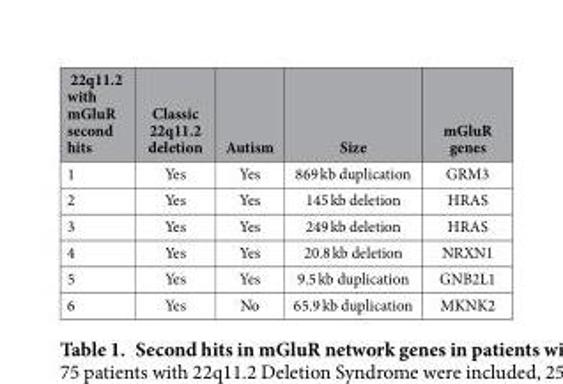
<table><thead><tr><td>22q11.2 with mGluR second hits</td><td>Classic 22q11.2 deletion</td><td>Autism</td><td>Size</td><td>mGluR genes</td></tr></thead><tbody><tr><td>1</td><td>Yes</td><td>Yes</td><td>869 kb duplication</td><td>GRM3</td></tr><tr><td>2</td><td>Yes</td><td>Yes</td><td>145 kb deletion</td><td>HRAS</td></tr><tr><td>3</td><td>Yes</td><td>Yes</td><td>249 kb deletion</td><td>HRAS</td></tr><tr><td>4</td><td>Yes</td><td>Yes</td><td>20.8 kb deletion</td><td>NRXN1</td></tr><tr><td>5</td><td>Yes</td><td>Yes</td><td>9.5 kb duplication</td><td>GNB2L1</td></tr><tr><td>6</td><td>Yes</td><td>No</td><td>65.9 kb duplication</td><td>MKNK2</td></tr></tbody></table>